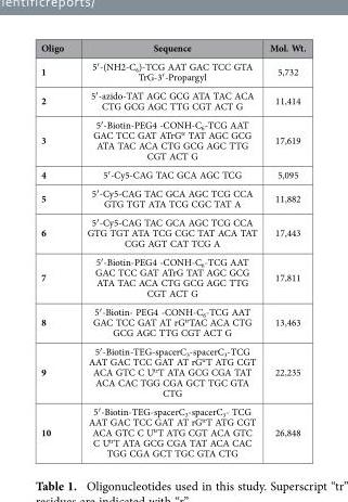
<table><thead><tr><td>Oligo</td><td>Sequence</td><td>Mol. Wt.</td></tr></thead><tbody><tr><td>1</td><td>5′ -(NH2-C<sub>6</sub>)-TCG AAT GAC TCC GTA TrG-3′ -Propargyl</td><td>5,732</td></tr><tr><td>2</td><td>5′ -azido-TAT AGC GCG ATA TAC ACA CTG GCG AGC TTG CGT ACT G</td><td>11,414</td></tr><tr><td>3</td><td>5′ -Biotin-PEG4 -CONH-C<sub>6</sub>-TCG AAT GAC TCC GAT ATrG<sup>tr</sup> TAT AGC GCG ATA TAC ACA CTG GCG AGC TTG CGT ACT G</td><td>17,619</td></tr><tr><td>4</td><td>5′ -Cy5-CAG TAC GCA AGC TCG</td><td>5,095</td></tr><tr><td>5</td><td>5′ -Cy5-CAG TAC GCA AGC TCG CCA GTG TGT ATA TCG CGC TAT A</td><td>11,882</td></tr><tr><td>6</td><td>5′ -Cy5-CAG TAC GCA AGC TCG CCA GTG TGT ATA TCG CGC TAT ACA TAT CGG AGT CAT TCG A</td><td>17,443</td></tr><tr><td>7</td><td>5′ -Biotin-PEG4 -CONH-C<sub>6</sub>-TCG AAT GAC TCC GAT ATrG TAT AGC GCG ATA TAC ACA CTG GCG AGC TTG CGT ACT G</td><td>17,811</td></tr><tr><td>8</td><td>5′ -Biotin- PEG4 -CONH-C<sub>6</sub>-TCG AAT GAC TCC GAT AT rG<sup>tr</sup>TAC ACA CTG GCG AGC TTG CGT ACT G</td><td>13,463</td></tr><tr><td>9</td><td>5′ -Biotin-TEG-spacerC<sub>3</sub>-spacerC<sub>3</sub>-TCG AAT GAC TCC GAT AT rG<sup>tr</sup>T ATG CGT ACA GTC C U<sup>tr</sup>T ATA GCG CGA TAT ACA CAC TGG CGA GCT TGC GTA CTG</td><td>22,235</td></tr><tr><td>10</td><td>5′ -Biotin-TEG-spacerC<sub>3</sub>-spacerC<sub>3</sub>- TCG AAT GAC TCC GAT AT rG<sup>tr</sup>T ATG CGT ACA GTC C U<sup>tr</sup>T ATG CGT ACA GTC C U<sup>tr</sup>T ATA GCG CGA TAT ACA CAC TGG CGA GCT TGC GTA CTG</td><td>26,848</td></tr></tbody></table>